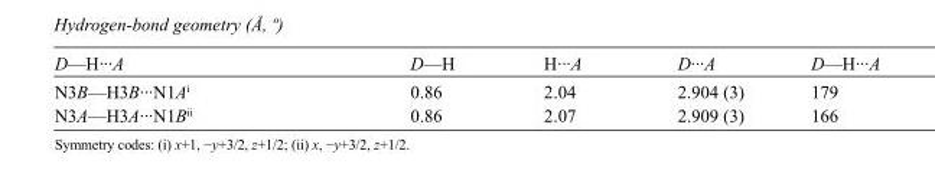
<table><tbody><tr><td>D—H···A</td><td>D—H</td><td>H···A</td><td>D···A</td><td>D—H···A</td></tr><tr><td>N3B—H3B···N1A<sup>i</sup></td><td>0.86</td><td>2.04</td><td>2.904 (3)</td><td>179</td></tr><tr><td>N3A—H3A···N1B<sup>ii</sup></td><td>0.86</td><td>2.07</td><td>2.909 (3)</td><td>166</td></tr></tbody></table>